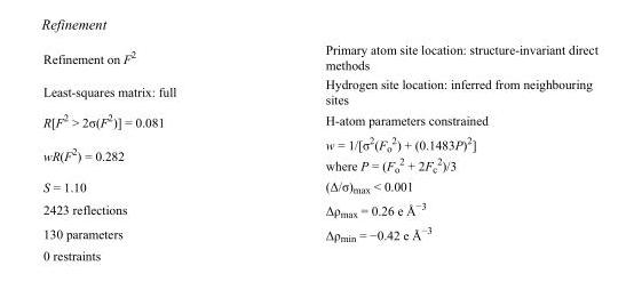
<table><tbody><tr><td>Refinement on F<sup>2</sup></td><td>Primary atom site location: structure-invariant direct methods</td></tr><tr><td>Least-squares matrix: full</td><td>Hydrogen site location: inferred from neighbouring sites</td></tr><tr><td>R[F<sup>2</sup> &gt; 2σ(F<sup>2</sup>)] = 0.081</td><td>H-atom parameters constrained</td></tr><tr><td>wR(F<sup>2</sup>) = 0.282</td><td>w = 1/[σ<sup>2</sup>(F<sub>o</sub> <sup>2</sup>) + (0.1483P)<sup>2</sup>] where P = (F<sub>o</sub> <sup>2</sup> + 2F<sub>c</sub> <sup>2</sup>)/3</td></tr><tr><td>S = 1.10</td><td>(Δ/σ)<sub>max</sub> &lt; 0.001</td></tr><tr><td>2423 reflections</td><td>Δρ<sub>max</sub> = 0.26 e Å<sup>−3</sup></td></tr><tr><td>130 parameters</td><td>Δρ<sub>min</sub> = −0.42 e Å<sup>−3</sup></td></tr><tr><td>0 restraints</td><td></td></tr></tbody></table>